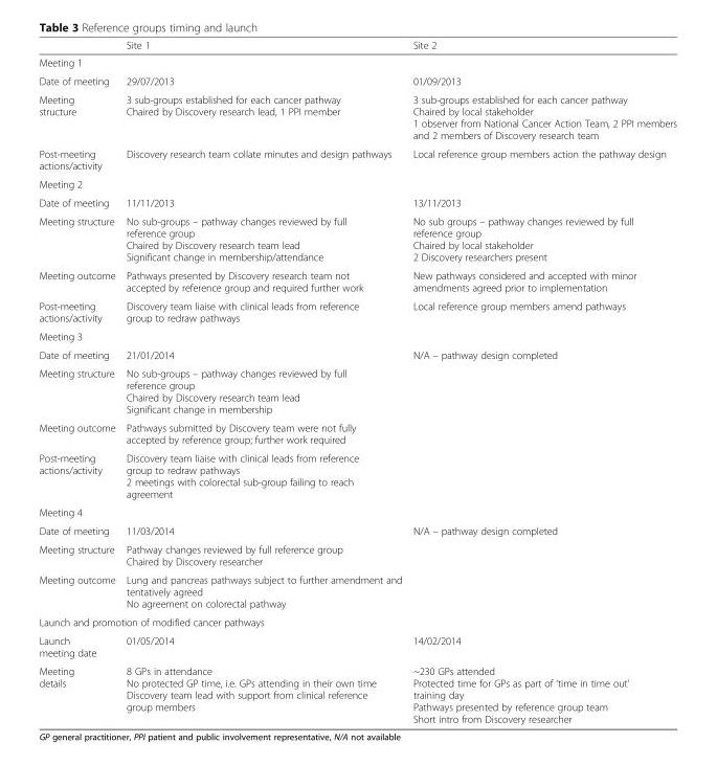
<table><thead><tr><td></td><td>Site 1</td><td>Site 2</td></tr></thead><tbody><tr><td colspan="3">Meeting 1</td></tr><tr><td>Date of meeting</td><td>29/07/2013</td><td>01/09/2013</td></tr><tr><td>Meeting structure</td><td>3 sub-groups established for each cancer pathway Chaired by Discovery research lead, 1 PPI member</td><td>3 sub-groups established for each cancer pathway Chaired by local stakeholder 1 observer from National Cancer Action Team, 2 PPI members and 2 members of Discovery research team</td></tr><tr><td>Post-meeting actions/activity</td><td>Discovery research team collate minutes and design pathways</td><td>Local reference group members action the pathway design</td></tr><tr><td colspan="3">Meeting 2</td></tr><tr><td>Date of meeting</td><td>11/11/2013</td><td>13/11/2013</td></tr><tr><td>Meeting structure</td><td>No sub-groups – pathway changes reviewed by full reference group Chaired by Discovery research team lead Significant change in membership/attendance</td><td>No sub groups – pathway changes reviewed by full reference group Chaired by local stakeholder 2 Discovery researchers present</td></tr><tr><td>Meeting outcome</td><td>Pathways presented by Discovery research team not accepted by reference group and required further work</td><td>New pathways considered and accepted with minor amendments agreed prior to implementation</td></tr><tr><td>Post-meeting actions/activity</td><td>Discovery team liaise with clinical leads from reference group to redraw pathways</td><td>Local reference group members amend pathways</td></tr><tr><td colspan="3">Meeting 3</td></tr><tr><td>Date of meeting</td><td>21/01/2014</td><td>N/A – pathway design completed</td></tr><tr><td>Meeting structure</td><td>No sub-groups – pathway changes reviewed by full reference group Chaired by Discovery research team lead Significant change in membership</td><td></td></tr><tr><td>Meeting outcome</td><td>Pathways submitted by Discovery team were not fully accepted by reference group; further work required</td><td></td></tr><tr><td>Post-meeting actions/activity</td><td>Discovery team liaise with clinical leads from reference group to redraw pathways 2 meetings with colorectal sub-group failing to reach agreement</td><td></td></tr><tr><td colspan="3">Meeting 4</td></tr><tr><td>Date of meeting</td><td>11/03/2014</td><td>N/A – pathway design completed</td></tr><tr><td>Meeting structure</td><td>Pathway changes reviewed by full reference group Chaired by Discovery researcher</td><td></td></tr><tr><td>Meeting outcome</td><td>Lung and pancreas pathways subject to further amendment and tentatively agreed No agreement on colorectal pathway</td><td></td></tr><tr><td colspan="3">Launch and promotion of modified cancer pathways</td></tr><tr><td>Launch meeting date</td><td>01/05/2014</td><td>14/02/2014</td></tr><tr><td>Meeting details</td><td>8 GPs in attendance No protected GP time, i.e. GPs attending in their own time Discovery team lead with support from clinical reference group members</td><td>~230 GPs attended Protected time for GPs as part of ‘time in time out’ training day Pathways presented by reference group team Short intro from Discovery researcher</td></tr></tbody></table>